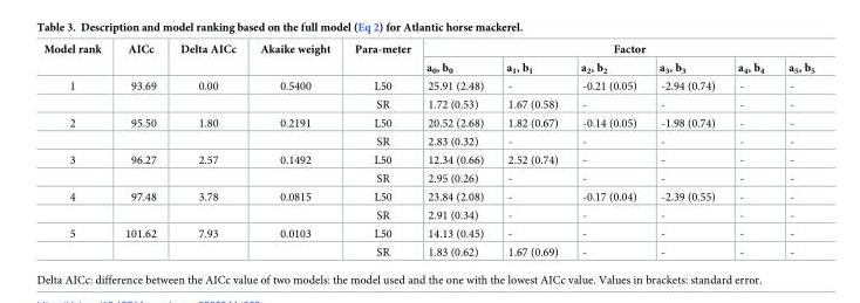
<table><thead><tr><td rowspan="2">Model rank</td><td rowspan="2">AICc</td><td rowspan="2">Delta AICc</td><td rowspan="2">Akaike weight</td><td rowspan="2">Para-meter</td><td colspan="6">Factor</td></tr><tr><td>a<sub>0</sub>, b<sub>0</sub></td><td>a<sub>1</sub>, b<sub>1</sub></td><td>a<sub>2</sub>, b<sub>2</sub></td><td>a<sub>3</sub>, b<sub>3</sub></td><td>a<sub>4</sub>, b<sub>4</sub></td><td>a<sub>5</sub>, b<sub>5</sub></td></tr></thead><tbody><tr><td rowspan="2">1</td><td>93.69</td><td>0.00</td><td>0.5400</td><td>L50</td><td>25.91 (2.48)</td><td>-</td><td>-0.21 (0.05)</td><td>-2.94 (0.74)</td><td>-</td><td>-</td></tr><tr><td></td><td></td><td></td><td>SR</td><td>1.72 (0.53)</td><td>1.67 (0.58)</td><td>-</td><td>-</td><td>-</td><td>-</td></tr><tr><td rowspan="2">2</td><td>95.50</td><td>1.80</td><td>0.2191</td><td>L50</td><td>20.52 (2.68)</td><td>1.82 (0.67)</td><td>-0.14 (0.05)</td><td>-1.98 (0.74)</td><td>-</td><td>-</td></tr><tr><td></td><td></td><td></td><td>SR</td><td>2.83 (0.32)</td><td>-</td><td>-</td><td>-</td><td>-</td><td>-</td></tr><tr><td rowspan="2">3</td><td>96.27</td><td>2.57</td><td>0.1492</td><td>L50</td><td>12.34 (0.66)</td><td>2.52 (0.74)</td><td>-</td><td>-</td><td>-</td><td>-</td></tr><tr><td></td><td></td><td></td><td>SR</td><td>2.95 (0.26)</td><td>-</td><td>-</td><td>-</td><td>-</td><td>-</td></tr><tr><td rowspan="2">4</td><td>97.48</td><td>3.78</td><td>0.0815</td><td>L50</td><td>23.84 (2.08)</td><td>-</td><td>-0.17 (0.04)</td><td>-2.39 (0.55)</td><td>-</td><td>-</td></tr><tr><td></td><td></td><td></td><td>SR</td><td>2.91 (0.34)</td><td>-</td><td>-</td><td>-</td><td>-</td><td>-</td></tr><tr><td rowspan="2">5</td><td>101.62</td><td>7.93</td><td>0.0103</td><td>L50</td><td>14.13 (0.45)</td><td>-</td><td>-</td><td>-</td><td>-</td><td>-</td></tr><tr><td></td><td></td><td></td><td>SR</td><td>1.83 (0.62)</td><td>1.67 (0.69)</td><td>-</td><td>-</td><td>-</td><td>-</td></tr></tbody></table>